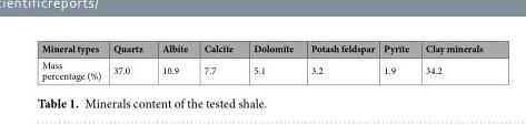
<table><thead><tr><td>Mineral types</td><td>Quartz</td><td>Albite</td><td>Calcite</td><td>Dolomite</td><td>Potash feldspar</td><td>Pyrite</td><td>Clay minerals</td></tr></thead><tbody><tr><td>Mass percentage (%)</td><td>37.0</td><td>10.9</td><td>7.7</td><td>5.1</td><td>3.2</td><td>1.9</td><td>34.2</td></tr></tbody></table>